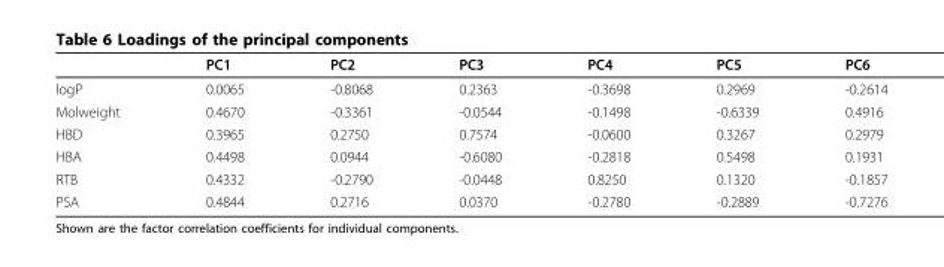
<table><thead><tr><td></td><td>PC1</td><td>PC2</td><td>PC3</td><td>PC4</td><td>PC5</td><td>PC6</td></tr></thead><tbody><tr><td>logP</td><td>0.0065</td><td>-0.8068</td><td>0.2363</td><td>-0.3698</td><td>0.2969</td><td>-0.2614</td></tr><tr><td>Molweight</td><td>0.4670</td><td>-0.3361</td><td>-0.0544</td><td>-0.1498</td><td>-0.6339</td><td>0.4916</td></tr><tr><td>HBD</td><td>0.3965</td><td>0.2750</td><td>0.7574</td><td>-0.0600</td><td>0.3267</td><td>0.2979</td></tr><tr><td>HBA</td><td>0.4498</td><td>0.0944</td><td>-0.6080</td><td>-0.2818</td><td>0.5498</td><td>0.1931</td></tr><tr><td>RTB</td><td>0.4332</td><td>-0.2790</td><td>-0.0448</td><td>0.8250</td><td>0.1320</td><td>-0.1857</td></tr><tr><td>PSA</td><td>0.4844</td><td>0.2716</td><td>0.0370</td><td>-0.2780</td><td>-0.2889</td><td>-0.7276</td></tr></tbody></table>